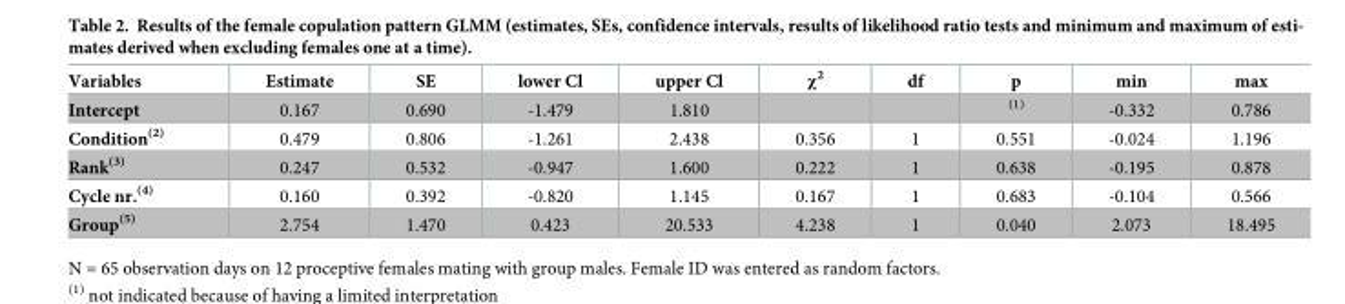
<table><thead><tr><td>Variables</td><td>Estimate</td><td>SE</td><td>lower Cl</td><td>upper Cl</td><td>χ<sup>2</sup></td><td>df</td><td>p</td><td>min</td><td>max</td></tr></thead><tbody><tr><td>Intercept</td><td>0.167</td><td>0.690</td><td>-1.479</td><td>1.810</td><td></td><td></td><td><sup>(1)</sup></td><td>-0.332</td><td>0.786</td></tr><tr><td>Condition<sup>(2)</sup></td><td>0.479</td><td>0.806</td><td>-1.261</td><td>2.438</td><td>0.356</td><td>1</td><td>0.551</td><td>-0.024</td><td>1.196</td></tr><tr><td>Rank<sup>(3)</sup></td><td>0.247</td><td>0.532</td><td>-0.947</td><td>1.600</td><td>0.222</td><td>1</td><td>0.638</td><td>-0.195</td><td>0.878</td></tr><tr><td>Cycle nr.<sup>(4)</sup></td><td>0.160</td><td>0.392</td><td>-0.820</td><td>1.145</td><td>0.167</td><td>1</td><td>0.683</td><td>-0.104</td><td>0.566</td></tr><tr><td>Group<sup>(5)</sup></td><td>2.754</td><td>1.470</td><td>0.423</td><td>20.533</td><td>4.238</td><td>1</td><td>0.040</td><td>2.073</td><td>18.495</td></tr></tbody></table>